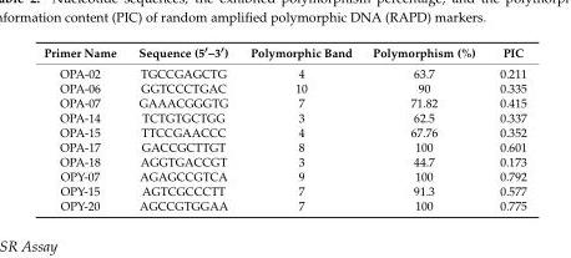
<table><thead><tr><td>Primer Name</td><td>Sequence (5′–3′)</td><td>Polymorphic Band</td><td>Polymorphism (%)</td><td>PIC</td></tr></thead><tbody><tr><td>OPA-02</td><td>TGCCGAGCTG</td><td>4</td><td>63.7</td><td>0.211</td></tr><tr><td>OPA-06</td><td>GGTCCCTGAC</td><td>10</td><td>90</td><td>0.335</td></tr><tr><td>OPA-07</td><td>GAAACGGGTG</td><td>7</td><td>71.82</td><td>0.415</td></tr><tr><td>OPA-14</td><td>TCTGTGCTGG</td><td>3</td><td>62.5</td><td>0.337</td></tr><tr><td>OPA-15</td><td>TTCCGAACCC</td><td>4</td><td>67.76</td><td>0.352</td></tr><tr><td>OPA-17</td><td>GACCGCTTGT</td><td>8</td><td>100</td><td>0.601</td></tr><tr><td>OPA-18</td><td>AGGTGACCGT</td><td>3</td><td>44.7</td><td>0.173</td></tr><tr><td>OPY-07</td><td>AGAGCCGTCA</td><td>9</td><td>100</td><td>0.792</td></tr><tr><td>OPY-15</td><td>AGTCGCCCTT</td><td>7</td><td>91.3</td><td>0.577</td></tr><tr><td>OPY-20</td><td>AGCCGTGGAA</td><td>7</td><td>100</td><td>0.775</td></tr></tbody></table>